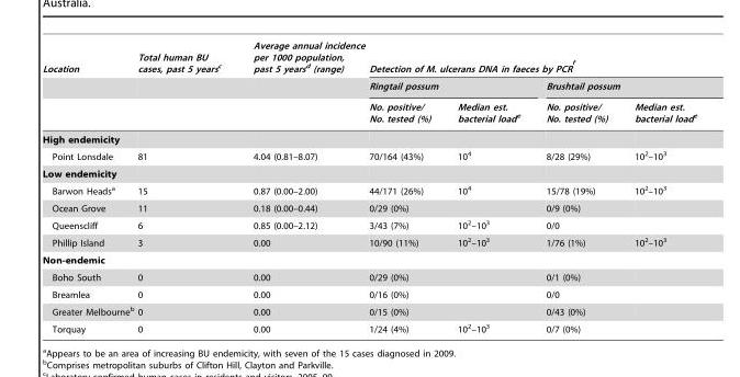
<table><thead><tr><td rowspan="3">Location</td><td rowspan="3">Total human BU cases, past 5 yearsc</td><td rowspan="3">Average annual incidence per 1000 population, past 5 yearsd (range)</td><td colspan="4">Detection of M. ulcerans DNA in faeces by PCR f</td></tr><tr><td colspan="2">Ringtail possum</td><td colspan="2">Brushtail possum</td></tr><tr><td>No. positive/ No. tested (%)</td><td>Median est. bacterial loade</td><td>No. positive/ No. tested (%)</td><td>Median est. bacterial loade</td></tr></thead><tbody><tr><td colspan="7">High endemicity</td></tr><tr><td>Point Lonsdale</td><td>81</td><td>4.04 (0.81–8.07)</td><td>70/164 (43%)</td><td>10<sup>4</sup></td><td>8/28 (29%)</td><td>10<sup>2</sup>–10<sup>3</sup></td></tr><tr><td colspan="7">Low endemicity</td></tr><tr><td>Barwon Heads<sup>a</sup></td><td>15</td><td>0.87 (0.00–2.00)</td><td>44/171 (26%)</td><td>10<sup>4</sup></td><td>15/78 (19%)</td><td>10<sup>2</sup>–10<sup>3</sup></td></tr><tr><td>Ocean Grove</td><td>11</td><td>0.18 (0.00–0.44)</td><td>0/29 (0%)</td><td></td><td>0/9 (0%)</td><td></td></tr><tr><td>Queenscliff</td><td>6</td><td>0.85 (0.00–2.12)</td><td>3/43 (7%)</td><td>10<sup>2</sup>–10<sup>3</sup></td><td>0/0</td><td></td></tr><tr><td>Phillip Island</td><td>3</td><td>0.00</td><td>10/90 (11%)</td><td>10<sup>2</sup>–10<sup>3</sup></td><td>1/76 (1%)</td><td>10<sup>2</sup>–10<sup>3</sup></td></tr><tr><td colspan="7">Non-endemic</td></tr><tr><td>Boho South</td><td>0</td><td>0.00</td><td>0/29 (0%)</td><td></td><td>0/1 (0%)</td><td></td></tr><tr><td>Breamlea</td><td>0</td><td>0.00</td><td>0/16 (0%)</td><td></td><td>0/0</td><td></td></tr><tr><td>Greater Melbourne<sup>b</sup></td><td>0</td><td>0.00</td><td>0/15 (0%)</td><td></td><td>0/43 (0%)</td><td></td></tr><tr><td>Torquay</td><td>0</td><td>0.00</td><td>1/24 (4%)</td><td>10<sup>2</sup>–10<sup>3</sup></td><td>0/7 (0%)</td><td></td></tr></tbody></table>